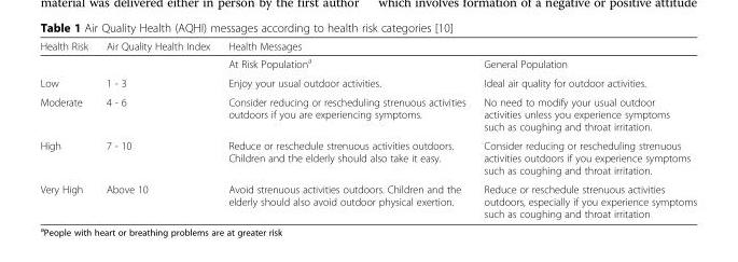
<table><thead><tr><td rowspan="2">Health Risk</td><td rowspan="2">Air Quality Health Index</td><td colspan="2">Health Messages</td></tr><tr><td>At Risk Population<sup>a</sup></td><td>General Population</td></tr></thead><tbody><tr><td>Low</td><td>1 - 3</td><td>Enjoy your usual outdoor activities.</td><td>Ideal air quality for outdoor activities.</td></tr><tr><td>Moderate</td><td>4 - 6</td><td>Consider reducing or rescheduling strenuous activities outdoors if you are experiencing symptoms.</td><td>No need to modify your usual outdoor activities unless you experience symptoms such as coughing and throat irritation.</td></tr><tr><td>High</td><td>7 - 10</td><td>Reduce or reschedule strenuous activities outdoors. Children and the elderly should also take it easy.</td><td>Consider reducing or rescheduling strenuous activities outdoors if you experience symptoms such as coughing and throat irritation.</td></tr><tr><td>Very High</td><td>Above 10</td><td>Avoid strenuous activities outdoors. Children and the elderly should also avoid outdoor physical exertion.</td><td>Reduce or reschedule strenuous activities outdoors, especially if you experience symptoms such as coughing and throat irritation</td></tr></tbody></table>